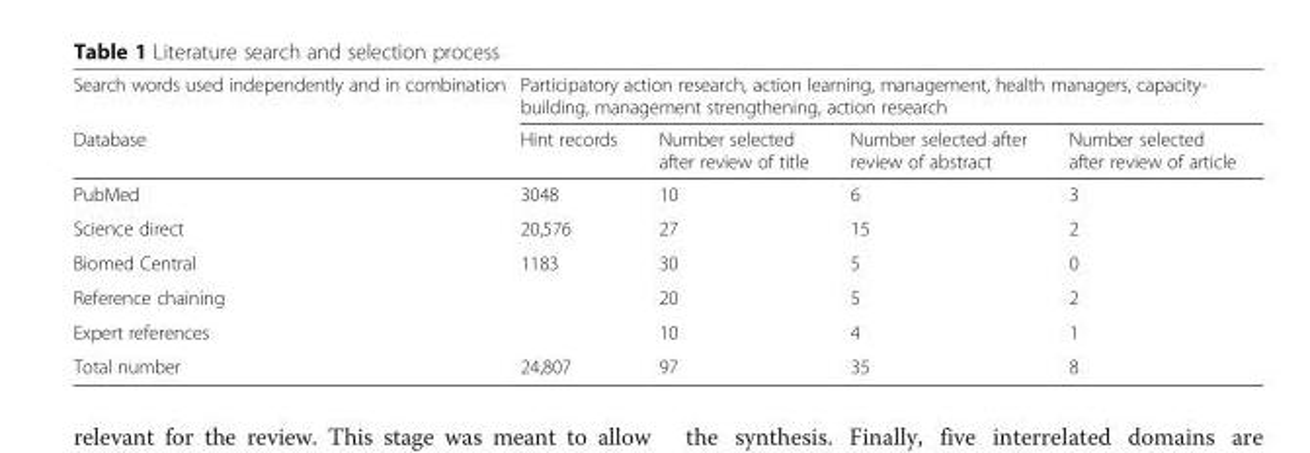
<table><thead><tr><td rowspan="2">Search words used independently and in combination Database</td><td colspan="4">Participatory action research, action learning, management, health managers, capacity- building, management strengthening, action research</td></tr><tr><td>Hint records</td><td>Number selected after review of title</td><td>Number selected after review of abstract</td><td>Number selected after review of article</td></tr></thead><tbody><tr><td>PubMed</td><td>3048</td><td>10</td><td>6</td><td>3</td></tr><tr><td>Science direct</td><td>20,576</td><td>27</td><td>15</td><td>2</td></tr><tr><td>Biomed Central</td><td>1183</td><td>30</td><td>5</td><td>0</td></tr><tr><td>Reference chaining</td><td></td><td>20</td><td>5</td><td>2</td></tr><tr><td>Expert references</td><td></td><td>10</td><td>4</td><td>1</td></tr><tr><td>Total number</td><td>24,807</td><td>97</td><td>35</td><td>8</td></tr></tbody></table>